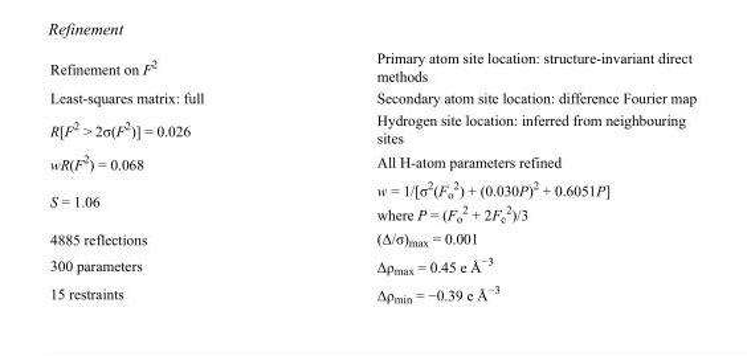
<table><tbody><tr><td>Refinement on F<sup>2</sup></td><td>Primary atom site location: structure-invariant direct methods</td></tr><tr><td>Least-squares matrix: full</td><td>Secondary atom site location: difference Fourier map</td></tr><tr><td>R[F<sup>2</sup> &gt; 2σ(F<sup>2</sup>)] = 0.026</td><td>Hydrogen site location: inferred from neighbouring sites</td></tr><tr><td>wR(F<sup>2</sup>) = 0.068</td><td>All H-atom parameters refined</td></tr><tr><td>S = 1.06</td><td>w = 1/[σ<sup>2</sup>(F<sub>o</sub> <sup>2</sup>) + (0.030P)<sup>2</sup> + 0.6051P] where P = (F<sub>o</sub> <sup>2</sup> + 2F<sub>c</sub> <sup>2</sup>)/3</td></tr><tr><td>4885 reflections</td><td>(Δ/σ)<sub>max</sub> = 0.001</td></tr><tr><td>300 parameters</td><td>Δρ<sub>max</sub> = 0.45 e Å<sup>−3</sup></td></tr><tr><td>15 restraints</td><td>Δρ<sub>min</sub> = −0.39 e Å<sup>−3</sup></td></tr></tbody></table>